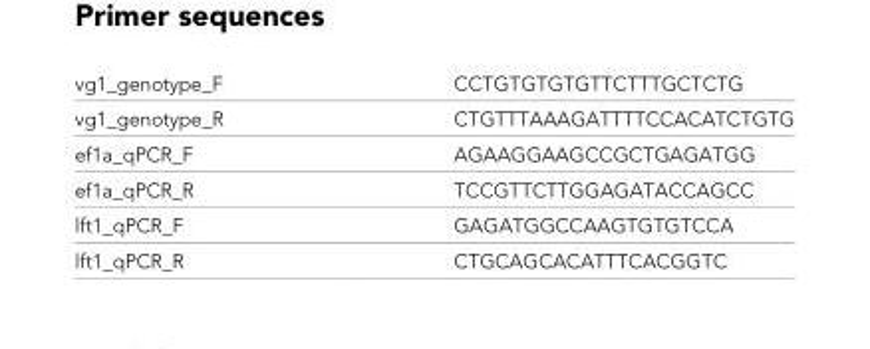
<table><tbody><tr><td>vg1_genotype_F</td><td>CCTGTGTGTGTTCTTTGCTCTG</td></tr><tr><td>vg1_genotype_R</td><td>CTGTTTAAAGATTTTCCACATCTGTG</td></tr><tr><td>ef1a_qPCR_F</td><td>AGAAGGAAGCCGCTGAGATGG</td></tr><tr><td>ef1a_qPCR_R</td><td>TCCGTTCTTGGAGATACCAGCC</td></tr><tr><td>lft1_qPCR_F</td><td>GAGATGGCCAAGTGTGTCCA</td></tr><tr><td>lft1_qPCR_R</td><td>CTGCAGCACATTTCACGGTC</td></tr></tbody></table>